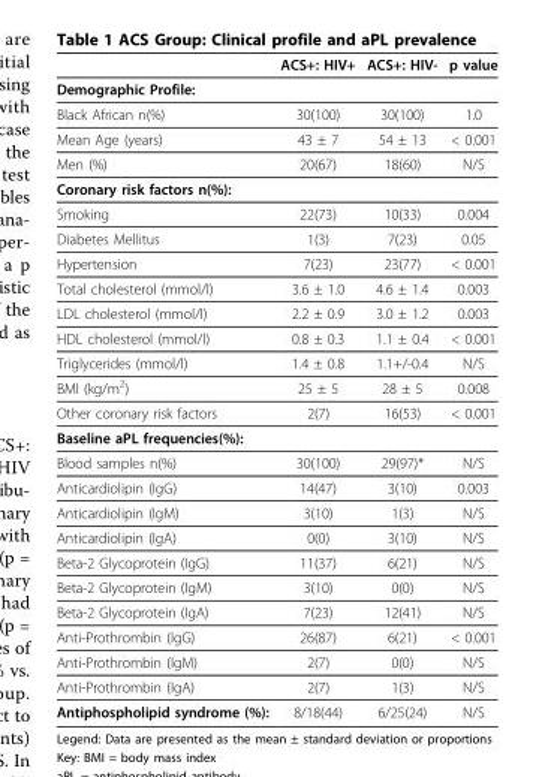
<table><thead><tr><td></td><td>ACS+: HIV+</td><td>ACS+: HIV-</td><td>p value</td></tr></thead><tbody><tr><td colspan="4">Demographic Profile:</td></tr><tr><td>Black African n(%)</td><td>30(100)</td><td>30(100)</td><td>1.0</td></tr><tr><td>Mean Age (years)</td><td>43 ± 7</td><td>54 ± 13</td><td>&lt; 0.001</td></tr><tr><td>Men (%)</td><td>20(67)</td><td>18(60)</td><td>N/S</td></tr><tr><td colspan="4">Coronary risk factors n(%):</td></tr><tr><td>Smoking</td><td>22(73)</td><td>10(33)</td><td>0.004</td></tr><tr><td>Diabetes Mellitus</td><td>1(3)</td><td>7(23)</td><td>0.05</td></tr><tr><td>Hypertension</td><td>7(23)</td><td>23(77)</td><td>&lt; 0.001</td></tr><tr><td>Total cholesterol (mmol/l)</td><td>3.6 ± 1.0</td><td>4.6 ± 1.4</td><td>0.003</td></tr><tr><td>LDL cholesterol (mmol/l)</td><td>2.2 ± 0.9</td><td>3.0 ± 1.2</td><td>0.003</td></tr><tr><td>HDL cholesterol (mmol/l)</td><td>0.8 ± 0.3</td><td>1.1 ± 0.4</td><td>&lt; 0.001</td></tr><tr><td>Triglycerides (mmol/l)</td><td>1.4 ± 0.8</td><td>1.1+/-0.4</td><td>N/S</td></tr><tr><td>BMI (kg/m<sup>2</sup>)</td><td>25 ± 5</td><td>28 ± 5</td><td>0.008</td></tr><tr><td>Other coronary risk factors</td><td>2(7)</td><td>16(53)</td><td>&lt; 0.001</td></tr><tr><td colspan="4">Baseline aPL frequencies(%):</td></tr><tr><td>Blood samples n(%)</td><td>30(100)</td><td>29(97)*</td><td>N/S</td></tr><tr><td>Anticardiolipin (IgG)</td><td>14(47)</td><td>3(10)</td><td>0.003</td></tr><tr><td>Anticardiolipin (IgM)</td><td>3(10)</td><td>1(3)</td><td>N/S</td></tr><tr><td>Anticardiolipin (IgA)</td><td>0(0)</td><td>3(10)</td><td>N/S</td></tr><tr><td>Beta-2 Glycoprotein (IgG)</td><td>11(37)</td><td>6(21)</td><td>N/S</td></tr><tr><td>Beta-2 Glycoprotein (IgM)</td><td>3(10)</td><td>0(0)</td><td>N/S</td></tr><tr><td>Beta-2 Glycoprotein (IgA)</td><td>7(23)</td><td>12(41)</td><td>N/S</td></tr><tr><td>Anti-Prothrombin (IgG)</td><td>26(87)</td><td>6(21)</td><td>&lt; 0.001</td></tr><tr><td>Anti-Prothrombin (IgM)</td><td>2(7)</td><td>0(0)</td><td>N/S</td></tr><tr><td>Anti-Prothrombin (IgA)</td><td>2(7)</td><td>1(3)</td><td>N/S</td></tr><tr><td>Antiphospholipid syndrome (%):</td><td>8/18(44)</td><td>6/25(24)</td><td>N/S</td></tr></tbody></table>